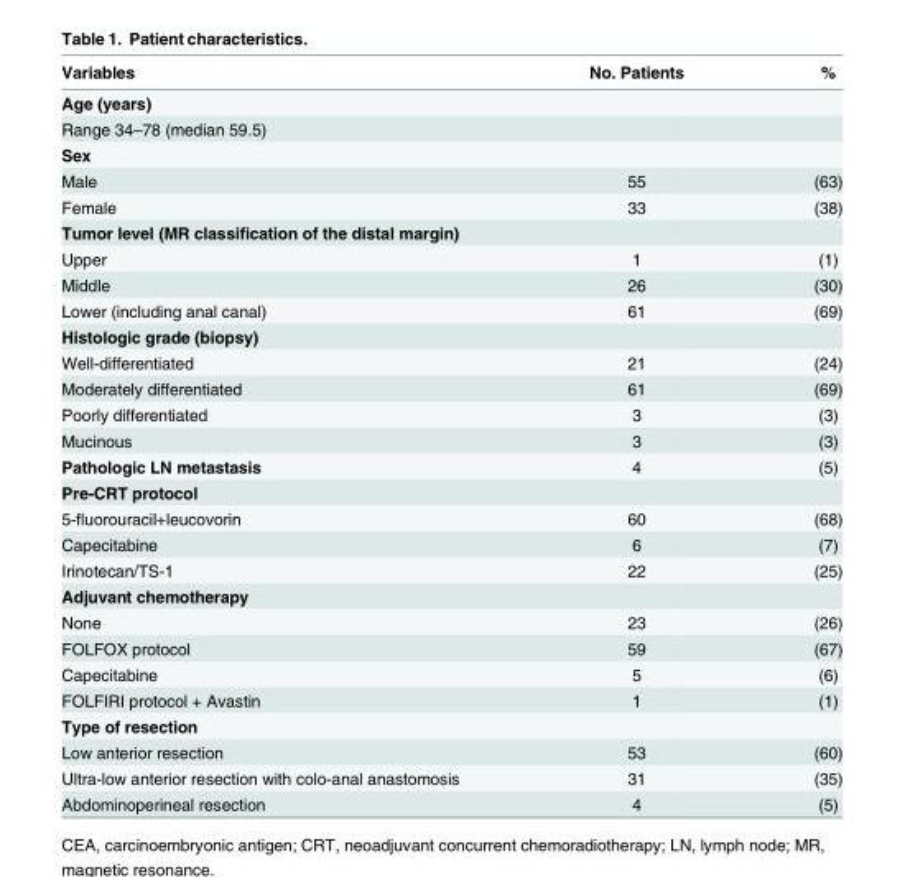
<table><thead><tr><td>Variables</td><td>No. Patients</td><td>%</td></tr></thead><tbody><tr><td colspan="3">Age (years)</td></tr><tr><td colspan="3">Range 34–78 (median 59.5)</td></tr><tr><td colspan="3">Sex</td></tr><tr><td>Male</td><td>55</td><td>(63)</td></tr><tr><td>Female</td><td>33</td><td>(38)</td></tr><tr><td colspan="3">Tumor level (MR classification of the distal margin)</td></tr><tr><td>Upper</td><td>1</td><td>(1)</td></tr><tr><td>Middle</td><td>26</td><td>(30)</td></tr><tr><td>Lower (including anal canal)</td><td>61</td><td>(69)</td></tr><tr><td colspan="3">Histologic grade (biopsy)</td></tr><tr><td>Well-differentiated</td><td>21</td><td>(24)</td></tr><tr><td>Moderately differentiated</td><td>61</td><td>(69)</td></tr><tr><td>Poorly differentiated</td><td>3</td><td>(3)</td></tr><tr><td>Mucinous</td><td>3</td><td>(3)</td></tr><tr><td>Pathologic LN metastasis</td><td>4</td><td>(5)</td></tr><tr><td colspan="3">Pre-CRT protocol</td></tr><tr><td>5-fluorouracil+leucovorin</td><td>60</td><td>(68)</td></tr><tr><td>Capecitabine</td><td>6</td><td>(7)</td></tr><tr><td>Irinotecan/TS-1</td><td>22</td><td>(25)</td></tr><tr><td colspan="3">Adjuvant chemotherapy</td></tr><tr><td>None</td><td>23</td><td>(26)</td></tr><tr><td>FOLFOX protocol</td><td>59</td><td>(67)</td></tr><tr><td>Capecitabine</td><td>5</td><td>(6)</td></tr><tr><td>FOLFIRI protocol + Avastin</td><td>1</td><td>(1)</td></tr><tr><td colspan="3">Type of resection</td></tr><tr><td>Low anterior resection</td><td>53</td><td>(60)</td></tr><tr><td>Ultra-low anterior resection with colo-anal anastomosis</td><td>31</td><td>(35)</td></tr><tr><td>Abdominoperineal resection</td><td>4</td><td>(5)</td></tr></tbody></table>